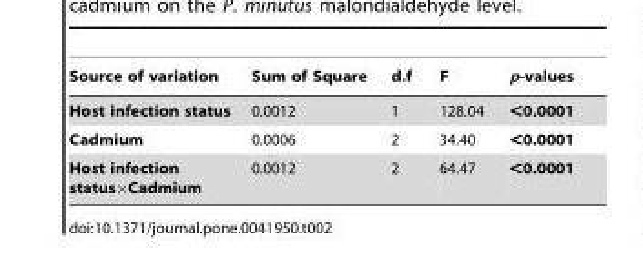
<table><thead><tr><td>Source of variation</td><td>Sum of Square</td><td>d.f</td><td>F</td><td>p-values</td></tr></thead><tbody><tr><td>Host infection status</td><td>0.0012</td><td>1</td><td>128.04</td><td>&lt;0.0001</td></tr><tr><td>Cadmium</td><td>0.0006</td><td>2</td><td>34.40</td><td>&lt;0.0001</td></tr><tr><td>Host infection status×Cadmium</td><td>0.0012</td><td>2</td><td>64.47</td><td>&lt;0.0001</td></tr></tbody></table>